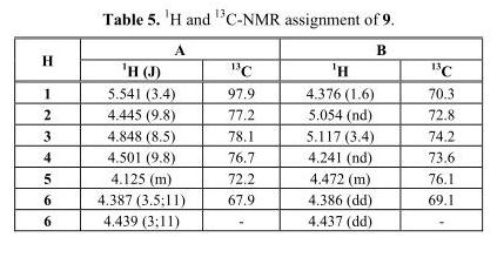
<table><thead><tr><td rowspan="2">H</td><td colspan="2">A</td><td colspan="2">B</td></tr><tr><td><sup>1</sup>H (J)</td><td><sup>13</sup>C</td><td><sup>1</sup>H</td><td><sup>13</sup>C</td></tr></thead><tbody><tr><td>1</td><td>5.541 (3.4)</td><td>97.9</td><td>4.376 (1.6)</td><td>70.3</td></tr><tr><td>2</td><td>4.445 (9.8)</td><td>77.2</td><td>5.054 (nd)</td><td>72.8</td></tr><tr><td>3</td><td>4.848 (8.5)</td><td>78.1</td><td>5.117 (3.4)</td><td>74.2</td></tr><tr><td>4</td><td>4.501 (9.8)</td><td>76.7</td><td>4.241 (nd)</td><td>73.6</td></tr><tr><td>5</td><td>4.125 (m)</td><td>72.2</td><td>4.472 (m)</td><td>76.1</td></tr><tr><td>6</td><td>4.387 (3.5;11)</td><td>67.9</td><td>4.386 (dd)</td><td>69.1</td></tr><tr><td>6</td><td>4.439 (3;11)</td><td>-</td><td>4.437 (dd)</td><td>-</td></tr></tbody></table>